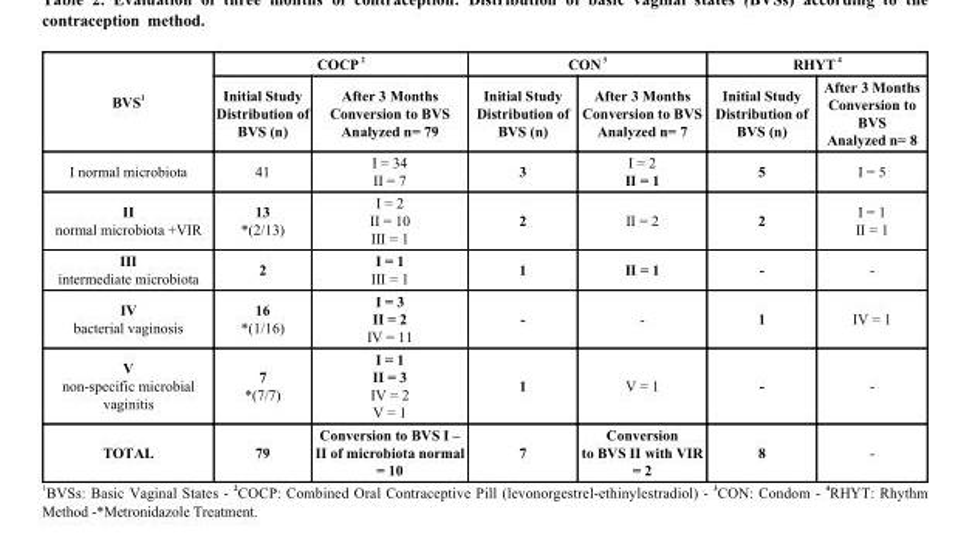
<table><thead><tr><td rowspan="2">BVS <sup>1</sup></td><td colspan="2">COCP <sup>2</sup></td><td colspan="2">CON <sup>3</sup></td><td colspan="2">RHYT <sup>4</sup></td></tr><tr><td>Initial Study Distribution of BVS (n)</td><td>After 3 Months Conversion to BVS Analyzed n= 79</td><td>Initial Study Distribution of BVS (n)</td><td>After 3 Months Conversion to BVS Analyzed n= 7</td><td>Initial Study Distribution of BVS (n)</td><td>After 3 Months Conversion to BVS Analyzed n= 8</td></tr></thead><tbody><tr><td>I normal microbiota</td><td>41</td><td>I = 34 II = 7</td><td>3</td><td>I = 2 II = 1</td><td>5</td><td>I = 5</td></tr><tr><td>II normal microbiota +VIR</td><td>13 *(2/13)</td><td>I = 2 II = 10 III = 1</td><td>2</td><td>II = 2</td><td>2</td><td>I = 1 II = 1</td></tr><tr><td>III intermediate microbiota</td><td>2</td><td>I = 1 III = 1</td><td>1</td><td>II = 1</td><td>-</td><td>-</td></tr><tr><td>IV bacterial vaginosis</td><td>16 *(1/16)</td><td>I = 3 II = 2 IV = 11</td><td>-</td><td>-</td><td>1</td><td>IV = 1</td></tr><tr><td>V non-specific microbial vaginitis</td><td>7 *(7/7)</td><td>I = 1 II = 3 IV = 2 V = 1</td><td>1</td><td>V = 1</td><td>-</td><td>-</td></tr><tr><td>TOTAL</td><td>79</td><td>Conversion to BVS I – II of microbiota normal = 10</td><td>7</td><td>Conversion to BVS II with VIR = 2</td><td>8</td><td>-</td></tr></tbody></table>